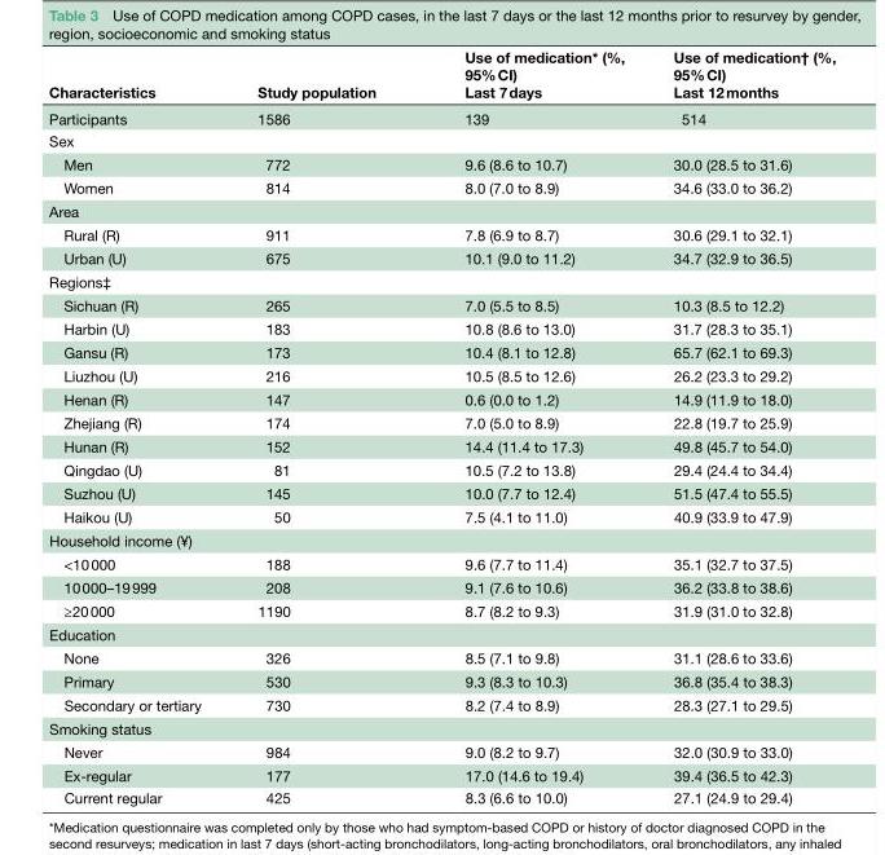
<table><thead><tr><td>Characteristics</td><td>Study population</td><td>Use of medication* (%, 95% CI) Last 7 days</td><td>Use of medication† (%, 95% CI) Last 12 months</td></tr></thead><tbody><tr><td>Participants</td><td>1586</td><td>139</td><td>514</td></tr><tr><td colspan="4">Sex</td></tr><tr><td>Men</td><td>772</td><td>9.6 (8.6 to 10.7)</td><td>30.0 (28.5 to 31.6)</td></tr><tr><td>Women</td><td>814</td><td>8.0 (7.0 to 8.9)</td><td>34.6 (33.0 to 36.2)</td></tr><tr><td colspan="4">Area</td></tr><tr><td>Rural (R)</td><td>911</td><td>7.8 (6.9 to 8.7)</td><td>30.6 (29.1 to 32.1)</td></tr><tr><td>Urban (U)</td><td>675</td><td>10.1 (9.0 to 11.2)</td><td>34.7 (32.9 to 36.5)</td></tr><tr><td colspan="4">Regions‡</td></tr><tr><td>Sichuan (R)</td><td>265</td><td>7.0 (5.5 to 8.5)</td><td>10.3 (8.5 to 12.2)</td></tr><tr><td>Harbin (U)</td><td>183</td><td>10.8 (8.6 to 13.0)</td><td>31.7 (28.3 to 35.1)</td></tr><tr><td>Gansu (R)</td><td>173</td><td>10.4 (8.1 to 12.8)</td><td>65.7 (62.1 to 69.3)</td></tr><tr><td>Liuzhou (U)</td><td>216</td><td>10.5 (8.5 to 12.6)</td><td>26.2 (23.3 to 29.2)</td></tr><tr><td>Henan (R)</td><td>147</td><td>0.6 (0.0 to 1.2)</td><td>14.9 (11.9 to 18.0)</td></tr><tr><td>Zhejiang (R)</td><td>174</td><td>7.0 (5.0 to 8.9)</td><td>22.8 (19.7 to 25.9)</td></tr><tr><td>Hunan (R)</td><td>152</td><td>14.4 (11.4 to 17.3)</td><td>49.8 (45.7 to 54.0)</td></tr><tr><td>Qingdao (U)</td><td>81</td><td>10.5 (7.2 to 13.8)</td><td>29.4 (24.4 to 34.4)</td></tr><tr><td>Suzhou (U)</td><td>145</td><td>10.0 (7.7 to 12.4)</td><td>51.5 (47.4 to 55.5)</td></tr><tr><td>Haikou (U)</td><td>50</td><td>7.5 (4.1 to 11.0)</td><td>40.9 (33.9 to 47.9)</td></tr><tr><td colspan="4">Household income (¥)</td></tr><tr><td>&lt;10 000</td><td>188</td><td>9.6 (7.7 to 11.4)</td><td>35.1 (32.7 to 37.5)</td></tr><tr><td>10 000–19 999</td><td>208</td><td>9.1 (7.6 to 10.6)</td><td>36.2 (33.8 to 38.6)</td></tr><tr><td>≥20 000</td><td>1190</td><td>8.7 (8.2 to 9.3)</td><td>31.9 (31.0 to 32.8)</td></tr><tr><td colspan="4">Education</td></tr><tr><td>None</td><td>326</td><td>8.5 (7.1 to 9.8)</td><td>31.1 (28.6 to 33.6)</td></tr><tr><td>Primary</td><td>530</td><td>9.3 (8.3 to 10.3)</td><td>36.8 (35.4 to 38.3)</td></tr><tr><td>Secondary or tertiary</td><td>730</td><td>8.2 (7.4 to 8.9)</td><td>28.3 (27.1 to 29.5)</td></tr><tr><td colspan="4">Smoking status</td></tr><tr><td>Never</td><td>984</td><td>9.0 (8.2 to 9.7)</td><td>32.0 (30.9 to 33.0)</td></tr><tr><td>Ex-regular</td><td>177</td><td>17.0 (14.6 to 19.4)</td><td>39.4 (36.5 to 42.3)</td></tr><tr><td>Current regular</td><td>425</td><td>8.3 (6.6 to 10.0)</td><td>27.1 (24.9 to 29.4)</td></tr></tbody></table>